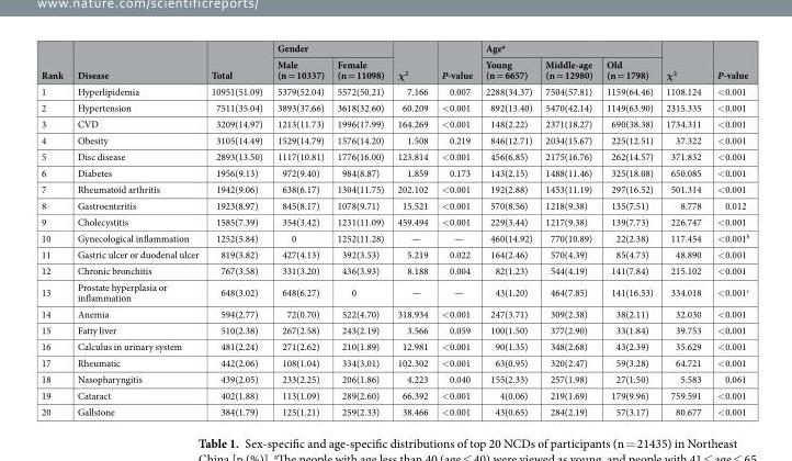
<table><thead><tr><td rowspan="2">Rank</td><td rowspan="2">Disease</td><td rowspan="2">Total</td><td colspan="2">Gender</td><td rowspan="2">χ<sup>2</sup></td><td rowspan="2">P-value</td><td colspan="3">Age<sup>a</sup></td><td rowspan="2">χ<sup>2</sup></td><td rowspan="2">P-value</td></tr><tr><td>Male (n = 10337)</td><td>Female (n = 11098)</td><td>Young (n = 6657)</td><td>Middle-age (n = 12980)</td><td>Old (n = 1798)</td></tr></thead><tbody><tr><td>1</td><td>Hyperlipidemia</td><td>10951(51.09)</td><td>5379(52.04)</td><td>5572(50.21)</td><td>7.166</td><td>0.007</td><td>2288(34.37)</td><td>7504(57.81)</td><td>1159(64.46)</td><td>1108.124</td><td>&lt;0.001</td></tr><tr><td>2</td><td>Hypertension</td><td>7511(35.04)</td><td>3893(37.66)</td><td>3618(32.60)</td><td>60.209</td><td>&lt;0.001</td><td>892(13.40)</td><td>5470(42.14)</td><td>1149(63.90)</td><td>2315.335</td><td>&lt;0.001</td></tr><tr><td>3</td><td>CVD</td><td>3209(14.97)</td><td>1213(11.73)</td><td>1996(17.99)</td><td>164.269</td><td>&lt;0.001</td><td>148(2.22)</td><td>2371(18.27)</td><td>690(38.38)</td><td>1734.311</td><td>&lt;0.001</td></tr><tr><td>4</td><td>Obesity</td><td>3105(14.49)</td><td>1529(14.79)</td><td>1576(14.20)</td><td>1.508</td><td>0.219</td><td>846(12.71)</td><td>2034(15.67)</td><td>225(12.51)</td><td>37.322</td><td>&lt;0.001</td></tr><tr><td>5</td><td>Disc disease</td><td>2893(13.50)</td><td>1117(10.81)</td><td>1776(16.00)</td><td>123.814</td><td>&lt;0.001</td><td>456(6.85)</td><td>2175(16.76)</td><td>262(14.57)</td><td>371.832</td><td>&lt;0.001</td></tr><tr><td>6</td><td>Diabetes</td><td>1956(9.13)</td><td>972(9.40)</td><td>984(8.87)</td><td>1.859</td><td>0.173</td><td>143(2.15)</td><td>1488(11.46)</td><td>325(18.08)</td><td>650.085</td><td>&lt;0.001</td></tr><tr><td>7</td><td>Rheumatoid arthritis</td><td>1942(9.06)</td><td>638(6.17)</td><td>1304(11.75)</td><td>202.102</td><td>&lt;0.001</td><td>192(2.88)</td><td>1453(11.19)</td><td>297(16.52)</td><td>501.314</td><td>&lt;0.001</td></tr><tr><td>8</td><td>Gastroenteritis</td><td>1923(8.97)</td><td>845(8.17)</td><td>1078(9.71)</td><td>15.521</td><td>&lt;0.001</td><td>570(8.56)</td><td>1218(9.38)</td><td>135(7.51)</td><td>8.778</td><td>0.012</td></tr><tr><td>9</td><td>Cholecystitis</td><td>1585(7.39)</td><td>354(3.42)</td><td>1231(11.09)</td><td>459.494</td><td>&lt;0.001</td><td>229(3.44)</td><td>1217(9.38)</td><td>139(7.73)</td><td>226.747</td><td>&lt;0.001</td></tr><tr><td>10</td><td>Gynecological inflammation</td><td>1252(5.84)</td><td>0</td><td>1252(11.28)</td><td>—</td><td>—</td><td>460(14.92)</td><td>770(10.89)</td><td>22(2.38)</td><td>117.454</td><td>&lt;0.001<sup>b</sup></td></tr><tr><td>11</td><td>Gastric ulcer or duodenal ulcer</td><td>819(3.82)</td><td>427(4.13)</td><td>392(3.53)</td><td>5.219</td><td>0.022</td><td>164(2.46)</td><td>570(4.39)</td><td>85(4.73)</td><td>48.890</td><td>&lt;0.001</td></tr><tr><td>12</td><td>Chronic bronchitis</td><td>767(3.58)</td><td>331(3.20)</td><td>436(3.93)</td><td>8.188</td><td>0.004</td><td>82(1.23)</td><td>544(4.19)</td><td>141(7.84)</td><td>215.102</td><td>&lt;0.001</td></tr><tr><td>13</td><td>Prostate hyperplasia or inflammation</td><td>648(3.02)</td><td>648(6.27)</td><td>0</td><td>—</td><td>—</td><td>43(1.20)</td><td>464(7.85)</td><td>141(16.53)</td><td>334.018</td><td>&lt;0.001<sup>c</sup></td></tr><tr><td>14</td><td>Anemia</td><td>594(2.77)</td><td>72(0.70)</td><td>522(4.70)</td><td>318.934</td><td>&lt;0.001</td><td>247(3.71)</td><td>309(2.38)</td><td>38(2.11)</td><td>32.030</td><td>&lt;0.001</td></tr><tr><td>15</td><td>Fatty liver</td><td>510(2.38)</td><td>267(2.58)</td><td>243(2.19)</td><td>3.566</td><td>0.059</td><td>100(1.50)</td><td>377(2.90)</td><td>33(1.84)</td><td>39.753</td><td>&lt;0.001</td></tr><tr><td>16</td><td>Calculus in urinary system</td><td>481(2.24)</td><td>271(2.62)</td><td>210(1.89)</td><td>12.981</td><td>&lt;0.001</td><td>90(1.35)</td><td>348(2.68)</td><td>43(2.39)</td><td>35.629</td><td>&lt;0.001</td></tr><tr><td>17</td><td>Rheumatic</td><td>442(2.06)</td><td>108(1.04)</td><td>334(3.01)</td><td>102.302</td><td>&lt;0.001</td><td>63(0.95)</td><td>320(2.47)</td><td>59(3.28)</td><td>64.721</td><td>&lt;0.001</td></tr><tr><td>18</td><td>Nasopharyngitis</td><td>439(2.05)</td><td>233(2.25)</td><td>206(1.86)</td><td>4.223</td><td>0.040</td><td>155(2.33)</td><td>257(1.98)</td><td>27(1.50)</td><td>5.583</td><td>0.061</td></tr><tr><td>19</td><td>Cataract</td><td>402(1.88)</td><td>113(1.09)</td><td>289(2.60)</td><td>66.392</td><td>&lt;0.001</td><td>4(0.06)</td><td>219(1.69)</td><td>179(9.96)</td><td>759.591</td><td>&lt;0.001</td></tr><tr><td>20</td><td>Gallstone</td><td>384(1.79)</td><td>125(1.21)</td><td>259(2.33)</td><td>38.466</td><td>&lt;0.001</td><td>43(0.65)</td><td>284(2.19)</td><td>57(3.17)</td><td>80.677</td><td>&lt;0.001</td></tr></tbody></table>